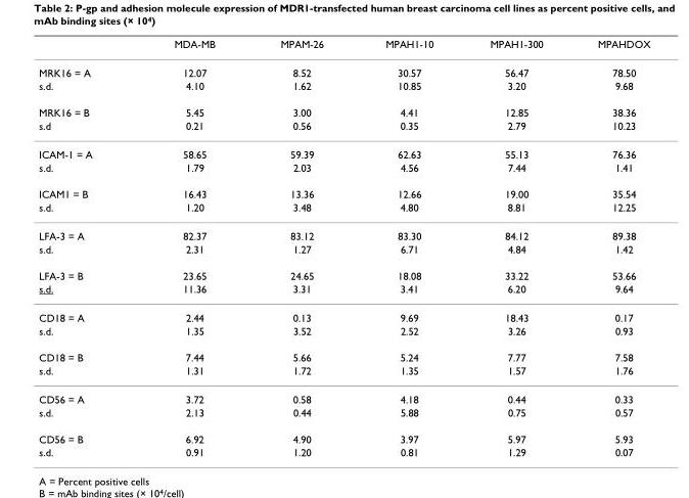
<table><thead><tr><td></td><td>MDA-MB</td><td>MPAM-26</td><td>MPAH1-10</td><td>MPAH1-300</td><td>MPAHDOX</td></tr></thead><tbody><tr><td>MRK16 = A</td><td>12.07</td><td>8.52</td><td>30.57</td><td>56.47</td><td>78.50</td></tr><tr><td>s.d.</td><td>4.10</td><td>1.62</td><td>10.85</td><td>3.20</td><td>9.68</td></tr><tr><td>MRK16 = B</td><td>5.45</td><td>3.00</td><td>4.41</td><td>12.85</td><td>38.36</td></tr><tr><td>s.d</td><td>0.21</td><td>0.56</td><td>0.35</td><td>2.79</td><td>10.23</td></tr><tr><td>ICAM-1 = A</td><td>58.65</td><td>59.39</td><td>62.63</td><td>55.13</td><td>76.36</td></tr><tr><td>s.d.</td><td>1.79</td><td>2.03</td><td>4.56</td><td>7.44</td><td>1.41</td></tr><tr><td>ICAM1 = B</td><td>16.43</td><td>13.36</td><td>12.66</td><td>19.00</td><td>35.54</td></tr><tr><td>s.d.</td><td>1.20</td><td>3.48</td><td>4.80</td><td>8.81</td><td>12.25</td></tr><tr><td>LFA-3 = A</td><td>82.37</td><td>83.12</td><td>83.30</td><td>84.12</td><td>89.38</td></tr><tr><td>s.d.</td><td>2.31</td><td>1.27</td><td>6.71</td><td>4.84</td><td>1.42</td></tr><tr><td>LFA-3 = B</td><td>23.65</td><td>24.65</td><td>18.08</td><td>33.22</td><td>53.66</td></tr><tr><td>s.d.</td><td>11.36</td><td>3.31</td><td>3.41</td><td>6.20</td><td>9.64</td></tr><tr><td>CD18 = A</td><td>2.44</td><td>0.13</td><td>9.69</td><td>18.43</td><td>0.17</td></tr><tr><td>s.d.</td><td>1.35</td><td>3.52</td><td>2.52</td><td>3.26</td><td>0.93</td></tr><tr><td>CD18 = B</td><td>7.44</td><td>5.66</td><td>5.24</td><td>7.77</td><td>7.58</td></tr><tr><td>s.d.</td><td>1.31</td><td>1.72</td><td>1.35</td><td>1.57</td><td>1.76</td></tr><tr><td>CD56 = A</td><td>3.72</td><td>0.58</td><td>4.18</td><td>0.44</td><td>0.33</td></tr><tr><td>s.d.</td><td>2.13</td><td>0.44</td><td>5.88</td><td>0.75</td><td>0.57</td></tr><tr><td>CD56 = B</td><td>6.92</td><td>4.90</td><td>3.97</td><td>5.97</td><td>5.93</td></tr><tr><td>s.d.</td><td>0.91</td><td>1.20</td><td>0.81</td><td>1.29</td><td>0.07</td></tr></tbody></table>